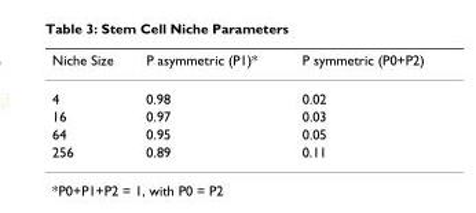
<table><thead><tr><td>Niche Size</td><td>P asymmetric (P1)*</td><td>P symmetric (P0+P2)</td></tr></thead><tbody><tr><td>4</td><td>0.98</td><td>0.02</td></tr><tr><td>16</td><td>0.97</td><td>0.03</td></tr><tr><td>64</td><td>0.95</td><td>0.05</td></tr><tr><td>256</td><td>0.89</td><td>0.11</td></tr></tbody></table>